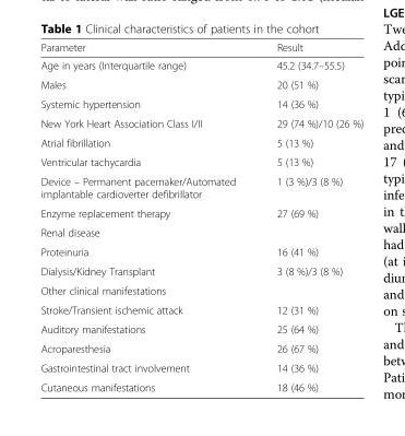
<table><thead><tr><td>Parameter</td><td>Result</td></tr></thead><tbody><tr><td>Age in years (Interquartile range)</td><td>45.2 (34.7–55.5)</td></tr><tr><td>Males</td><td>20 (51 %)</td></tr><tr><td>Systemic hypertension</td><td>14 (36 %)</td></tr><tr><td>New York Heart Association Class I/II</td><td>29 (74 %)/10 (26 %)</td></tr><tr><td>Atrial fibrillation</td><td>5 (13 %)</td></tr><tr><td>Ventricular tachycardia</td><td>5 (13 %)</td></tr><tr><td>Device – Permanent pacemaker/Automated implantable cardioverter defibrillator</td><td>1 (3 %)/3 (8 %)</td></tr><tr><td>Enzyme replacement therapy</td><td>27 (69 %)</td></tr><tr><td colspan="2">Renal disease</td></tr><tr><td>Proteinuria</td><td>16 (41 %)</td></tr><tr><td>Dialysis/Kidney Transplant</td><td>3 (8 %)/3 (8 %)</td></tr><tr><td colspan="2">Other clinical manifestations</td></tr><tr><td>Stroke/Transient ischemic attack</td><td>12 (31 %)</td></tr><tr><td>Auditory manifestations</td><td>25 (64 %)</td></tr><tr><td>Acroparesthesia</td><td>26 (67 %)</td></tr><tr><td>Gastrointestinal tract involvement</td><td>14 (36 %)</td></tr><tr><td>Cutaneous manifestations</td><td>18 (46 %)</td></tr></tbody></table>